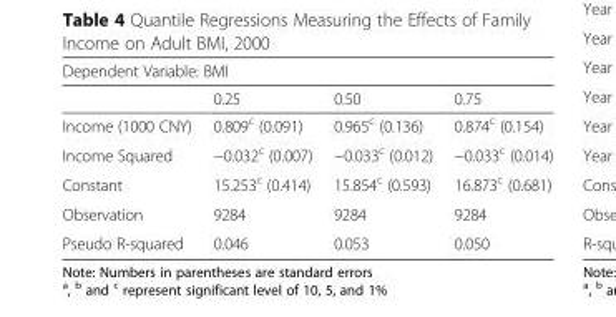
<table><thead><tr><td colspan="4">Dependent Variable: BMI</td></tr><tr><td></td><td>0.25</td><td>0.50</td><td>0.75</td></tr></thead><tbody><tr><td>Income (1000 CNY)</td><td>0.809<sup>c</sup> (0.091)</td><td>0.965<sup>c</sup> (0.136)</td><td>0.874<sup>c</sup> (0.154)</td></tr><tr><td>Income Squared</td><td>−0.032<sup>c</sup> (0.007)</td><td>−0.033<sup>c</sup> (0.012)</td><td>−0.033<sup>c</sup> (0.014)</td></tr><tr><td>Constant</td><td>15.253<sup>c</sup> (0.414)</td><td>15.854<sup>c</sup> (0.593)</td><td>16.873<sup>c</sup> (0.681)</td></tr><tr><td>Observation</td><td>9284</td><td>9284</td><td>9284</td></tr><tr><td>Pseudo R-squared</td><td>0.046</td><td>0.053</td><td>0.050</td></tr></tbody></table>